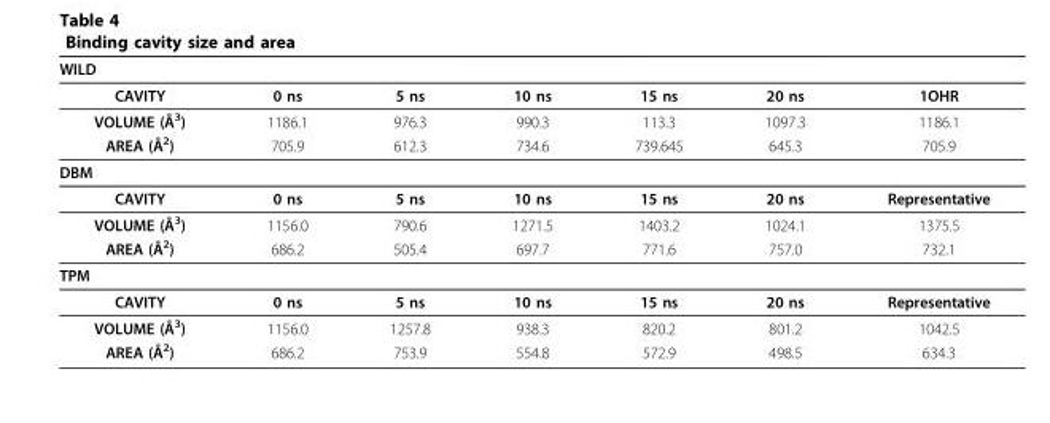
<table><thead><tr><td colspan="7">WILD</td></tr><tr><td>CAVITY</td><td>0 ns</td><td>5 ns</td><td>10 ns</td><td>15 ns</td><td>20 ns</td><td>1OHR</td></tr></thead><tbody><tr><td>VOLUME (Å<sup>3</sup>)</td><td>1186.1</td><td>976.3</td><td>990.3</td><td>113.3</td><td>1097.3</td><td>1186.1</td></tr><tr><td>AREA (Å<sup>2</sup>)</td><td>705.9</td><td>612.3</td><td>734.6</td><td>739.645</td><td>645.3</td><td>705.9</td></tr><tr><td colspan="7">DBM</td></tr><tr><td>CAVITY</td><td>0 ns</td><td>5 ns</td><td>10 ns</td><td>15 ns</td><td>20 ns</td><td>Representative</td></tr><tr><td>VOLUME (Å<sup>3</sup>)</td><td>1156.0</td><td>790.6</td><td>1271.5</td><td>1403.2</td><td>1024.1</td><td>1375.5</td></tr><tr><td>AREA (Å<sup>2</sup>)</td><td>686.2</td><td>505.4</td><td>697.7</td><td>771.6</td><td>757.0</td><td>732.1</td></tr><tr><td colspan="7">TPM</td></tr><tr><td>CAVITY</td><td>0 ns</td><td>5 ns</td><td>10 ns</td><td>15 ns</td><td>20 ns</td><td>Representative</td></tr><tr><td>VOLUME (Å<sup>3</sup>)</td><td>1156.0</td><td>1257.8</td><td>938.3</td><td>820.2</td><td>801.2</td><td>1042.5</td></tr><tr><td>AREA (Å<sup>2</sup>)</td><td>686.2</td><td>753.9</td><td>554.8</td><td>572.9</td><td>498.5</td><td>634.3</td></tr></tbody></table>